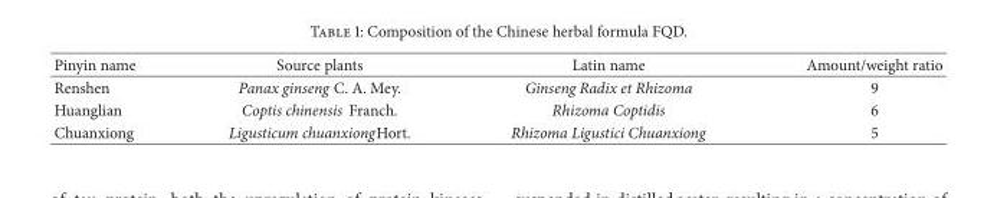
<table><thead><tr><td>Pinyin name</td><td>Source plants</td><td>Latin name</td><td>Amount/weight ratio</td></tr></thead><tbody><tr><td>Renshen</td><td>Panax ginseng C. A. Mey.</td><td>Ginseng Radix et Rhizoma</td><td>9</td></tr><tr><td>Huanglian</td><td>Coptis chinensis Franch.</td><td>Rhizoma Coptidis</td><td>6</td></tr><tr><td>Chuanxiong</td><td>Ligusticum chuanxiongHort.</td><td>Rhizoma Ligustici Chuanxiong</td><td>5</td></tr></tbody></table>